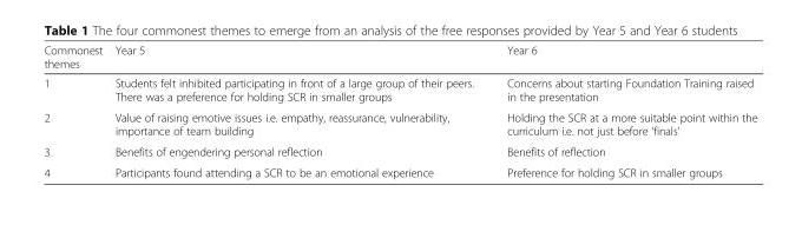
<table><thead><tr><td>Commonest themes</td><td>Year 5</td><td>Year 6</td></tr></thead><tbody><tr><td>1</td><td>Students felt inhibited participating in front of a large group of their peers. There was a preference for holding SCR in smaller groups</td><td>Concerns about starting Foundation Training raised in the presentation</td></tr><tr><td>2</td><td>Value of raising emotive issues i.e. empathy, reassurance, vulnerability, importance of team building</td><td>Holding the SCR at a more suitable point within the curriculum i.e. not just before ‘finals’</td></tr><tr><td>3</td><td>Benefits of engendering personal reflection</td><td>Benefits of reflection</td></tr><tr><td>4</td><td>Participants found attending a SCR to be an emotional experience</td><td>Preference for holding SCR in smaller groups</td></tr></tbody></table>